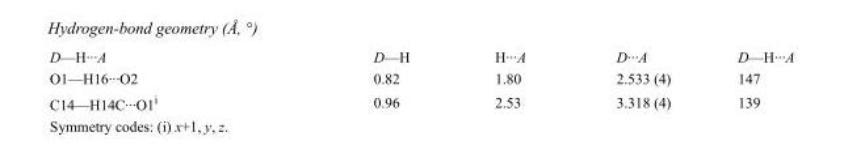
<table><tbody><tr><td>D—H···A</td><td>D—H</td><td>H···A</td><td>D···A</td><td>D—H···A</td></tr><tr><td>O1—H16···O2</td><td>0.82</td><td>1.80</td><td>2.533 (4)</td><td>147</td></tr><tr><td>C14—H14C···O1<sup>i</sup></td><td>0.96</td><td>2.53</td><td>3.318 (4)</td><td>139</td></tr></tbody></table>